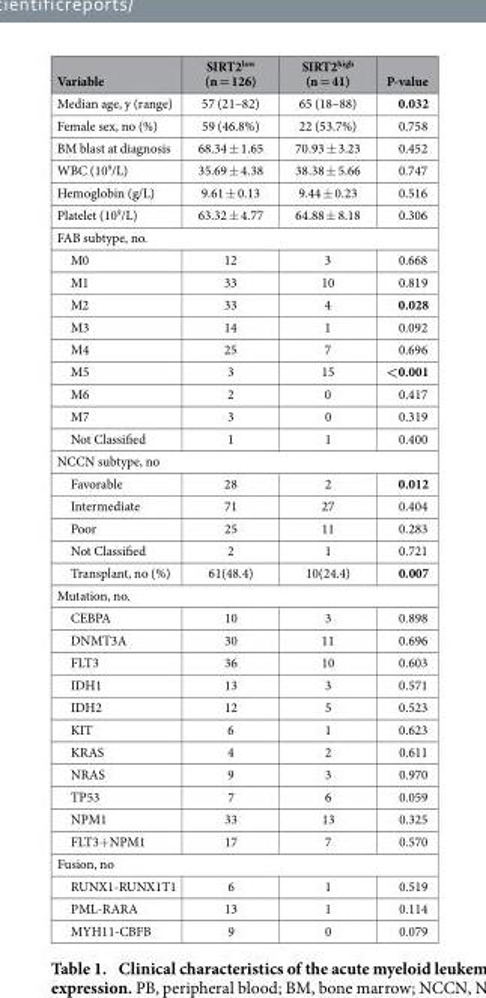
<table><thead><tr><td>Variable</td><td>SIRT2<sup>low</sup> (n = 126)</td><td>SIRT2<sup>high</sup> (n = 41)</td><td>P-value</td></tr></thead><tbody><tr><td>Median age, y (range)</td><td>57 (21–82)</td><td>65 (18–88)</td><td>0.032</td></tr><tr><td>Female sex, no (%)</td><td>59 (46.8%)</td><td>22 (53.7%)</td><td>0.758</td></tr><tr><td>BM blast at diagnosis</td><td>68.34 ± 1.65</td><td>70.93 ± 3.23</td><td>0.452</td></tr><tr><td>WBC (10<sup>9</sup>/L)</td><td>35.69 ± 4.38</td><td>38.38 ± 5.66</td><td>0.747</td></tr><tr><td>Hemoglobin (g/L)</td><td>9.61 ± 0.13</td><td>9.44 ± 0.23</td><td>0.516</td></tr><tr><td>Platelet (10<sup>9</sup>/L)</td><td>63.32 ± 4.77</td><td>64.88 ± 8.18</td><td>0.306</td></tr><tr><td colspan="4">FAB subtype, no.</td></tr><tr><td>M0</td><td>12</td><td>3</td><td>0.668</td></tr><tr><td>M1</td><td>33</td><td>10</td><td>0.819</td></tr><tr><td>M2</td><td>33</td><td>4</td><td>0.028</td></tr><tr><td>M3</td><td>14</td><td>1</td><td>0.092</td></tr><tr><td>M4</td><td>25</td><td>7</td><td>0.696</td></tr><tr><td>M5</td><td>3</td><td>15</td><td>&lt;0.001</td></tr><tr><td>M6</td><td>2</td><td>0</td><td>0.417</td></tr><tr><td>M7</td><td>3</td><td>0</td><td>0.319</td></tr><tr><td>Not Classified</td><td>1</td><td>1</td><td>0.400</td></tr><tr><td colspan="4">NCCN subtype, no</td></tr><tr><td>Favorable</td><td>28</td><td>2</td><td>0.012</td></tr><tr><td>Intermediate</td><td>71</td><td>27</td><td>0.404</td></tr><tr><td>Poor</td><td>25</td><td>11</td><td>0.283</td></tr><tr><td>Not Classified</td><td>2</td><td>1</td><td>0.721</td></tr><tr><td>Transplant, no (%)</td><td>61(48.4)</td><td>10(24.4)</td><td>0.007</td></tr><tr><td colspan="4">Mutation, no.</td></tr><tr><td>CEBPA</td><td>10</td><td>3</td><td>0.898</td></tr><tr><td>DNMT3A</td><td>30</td><td>11</td><td>0.696</td></tr><tr><td>FLT3</td><td>36</td><td>10</td><td>0.603</td></tr><tr><td>IDH1</td><td>13</td><td>3</td><td>0.571</td></tr><tr><td>IDH2</td><td>12</td><td>5</td><td>0.523</td></tr><tr><td>KIT</td><td>6</td><td>1</td><td>0.623</td></tr><tr><td>KRAS</td><td>4</td><td>2</td><td>0.611</td></tr><tr><td>NRAS</td><td>9</td><td>3</td><td>0.970</td></tr><tr><td>TP53</td><td>7</td><td>6</td><td>0.059</td></tr><tr><td>NPM1</td><td>33</td><td>13</td><td>0.325</td></tr><tr><td>FLT3+ NPM1</td><td>17</td><td>7</td><td>0.570</td></tr><tr><td colspan="4">Fusion, no</td></tr><tr><td>RUNX1-RUNX1T1</td><td>6</td><td>1</td><td>0.519</td></tr><tr><td>PML-RARA</td><td>13</td><td>1</td><td>0.114</td></tr><tr><td>MYH11-CBFB</td><td>9</td><td>0</td><td>0.079</td></tr></tbody></table>